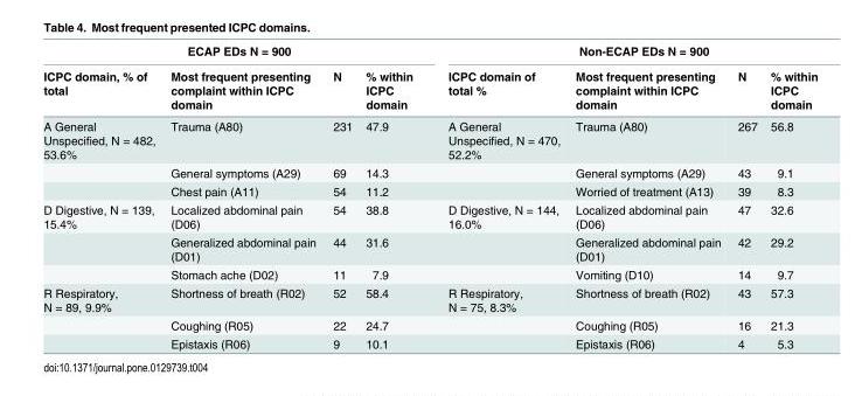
<table><thead><tr><td colspan="4">ECAP EDs N = 900</td><td colspan="4">Non-ECAP EDs N = 900</td></tr><tr><td>ICPC domain, % of total</td><td>Most frequent presenting complaint within ICPC domain</td><td>N</td><td>% within ICPC domain</td><td>ICPC domain of total %</td><td>Most frequent presenting complaint within ICPC domain</td><td>N</td><td>% within ICPC domain</td></tr></thead><tbody><tr><td rowspan="3">A General Unspecified, N = 482, 53.6%</td><td>Trauma (A80)</td><td>231</td><td>47.9</td><td>A General Unspecified, N = 470, 52.2%</td><td>Trauma (A80)</td><td>267</td><td>56.8</td></tr><tr><td>General symptoms (A29)</td><td>69</td><td>14.3</td><td></td><td>General symptoms (A29)</td><td>43</td><td>9.1</td></tr><tr><td>Chest pain (A11)</td><td>54</td><td>11.2</td><td></td><td>Worried of treatment (A13)</td><td>39</td><td>8.3</td></tr><tr><td rowspan="3">D Digestive, N = 139, 15.4%</td><td>Localized abdominal pain (D06)</td><td>54</td><td>38.8</td><td>D Digestive, N = 144, 16.0%</td><td>Localized abdominal pain (D06)</td><td>47</td><td>32.6</td></tr><tr><td>Generalized abdominal pain (D01)</td><td>44</td><td>31.6</td><td></td><td>Generalized abdominal pain (D01)</td><td>42</td><td>29.2</td></tr><tr><td>Stomach ache (D02)</td><td>11</td><td>7.9</td><td></td><td>Vomiting (D10)</td><td>14</td><td>9.7</td></tr><tr><td rowspan="3">R Respiratory, N = 89, 9.9%</td><td>Shortness of breath (R02)</td><td>52</td><td>58.4</td><td>R Respiratory, N = 75, 8.3%</td><td>Shortness of breath (R02)</td><td>43</td><td>57.3</td></tr><tr><td>Coughing (R05)</td><td>22</td><td>24.7</td><td></td><td>Coughing (R05)</td><td>16</td><td>21.3</td></tr><tr><td>Epistaxis (R06)</td><td>9</td><td>10.1</td><td></td><td>Epistaxis (R06)</td><td>4</td><td>5.3</td></tr></tbody></table>